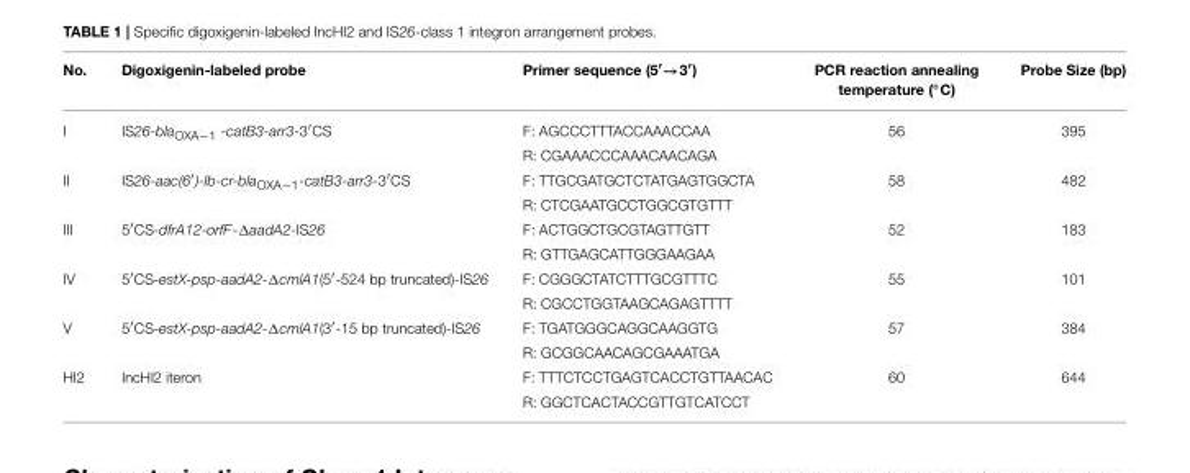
<table><thead><tr><td>No.</td><td>Digoxigenin-labeled probe</td><td>Primer sequence (5′→3′)</td><td>PCR reaction annealing temperature (◦C)</td><td>Probe Size (bp)</td></tr></thead><tbody><tr><td rowspan="2">I</td><td>IS26-bla<sub>OXA−1</sub> -catB3-arr3-3′CS</td><td>F: AGCCCTTTACCAAACCAA</td><td>56</td><td>395</td></tr><tr><td></td><td>R: CGAAACCCAAACAACAGA</td><td></td><td></td></tr><tr><td rowspan="2">II</td><td>IS26-aac(6′)-Ib-cr-bla<sub>OXA−1</sub>-catB3-arr3-3′CS</td><td>F: TTGCGATGCTCTATGAGTGGCTA</td><td>58</td><td>482</td></tr><tr><td></td><td>R: CTCGAATGCCTGGCGTGTTT</td><td></td><td></td></tr><tr><td rowspan="2">III</td><td>5′CS-dfrA12-orfF-ΔaadA2-IS26</td><td>F: ACTGGCTGCGTAGTTGTT</td><td>52</td><td>183</td></tr><tr><td></td><td>R: GTTGAGCATTGGGAAGAA</td><td></td><td></td></tr><tr><td rowspan="2">IV</td><td>5′CS-estX-psp-aadA2-ΔcmlA1(5′-524 bp truncated)-IS26</td><td>F: CGGGCTATCTTTGCGTTTC</td><td>55</td><td>101</td></tr><tr><td></td><td>R: CGCCTGGTAAGCAGAGTTTT</td><td></td><td></td></tr><tr><td rowspan="2">V</td><td>5′CS-estX-psp-aadA2-ΔcmlA1(3′-15 bp truncated)-IS26</td><td>F: TGATGGGCAGGCAAGGTG</td><td>57</td><td>384</td></tr><tr><td></td><td>R: GCGGCAACAGCGAAATGA</td><td></td><td></td></tr><tr><td rowspan="2">HI2</td><td>IncHI2 iteron</td><td>F: TTTCTCCTGAGTCACCTGTTAACAC</td><td>60</td><td>644</td></tr><tr><td></td><td>R: GGCTCACTACCGTTGTCATCCT</td><td></td><td></td></tr></tbody></table>